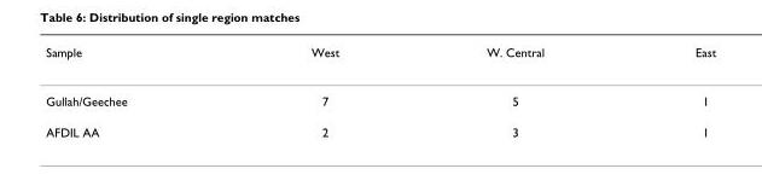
<table><thead><tr><td>Sample</td><td>West</td><td>W. Central</td><td>East</td></tr></thead><tbody><tr><td>Gullah/Geechee</td><td>7</td><td>5</td><td>1</td></tr><tr><td>AFDIL AA</td><td>2</td><td>3</td><td>1</td></tr></tbody></table>